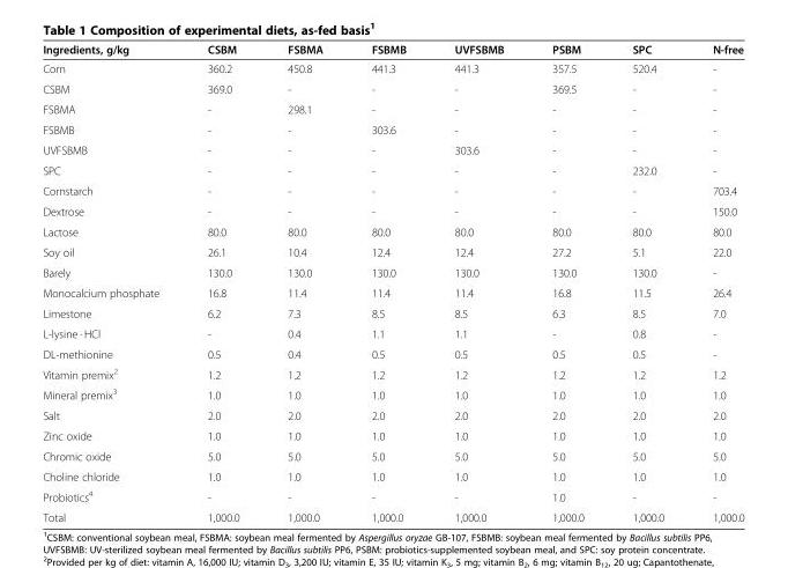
<table><thead><tr><td>Ingredients, g/kg</td><td>CSBM</td><td>FSBMA</td><td>FSBMB</td><td>UVFSBMB</td><td>PSBM</td><td>SPC</td><td>N-free</td></tr></thead><tbody><tr><td>Corn</td><td>360.2</td><td>450.8</td><td>441.3</td><td>441.3</td><td>357.5</td><td>520.4</td><td>-</td></tr><tr><td>CSBM</td><td>369.0</td><td>-</td><td>-</td><td>-</td><td>369.5</td><td>-</td><td>-</td></tr><tr><td>FSBMA</td><td>-</td><td>298.1</td><td>-</td><td>-</td><td>-</td><td>-</td><td>-</td></tr><tr><td>FSBMB</td><td>-</td><td>-</td><td>303.6</td><td>-</td><td>-</td><td>-</td><td>-</td></tr><tr><td>UVFSBMB</td><td>-</td><td>-</td><td>-</td><td>303.6</td><td>-</td><td>-</td><td>-</td></tr><tr><td>SPC</td><td>-</td><td>-</td><td>-</td><td>-</td><td>-</td><td>232.0</td><td>-</td></tr><tr><td>Cornstarch</td><td>-</td><td>-</td><td>-</td><td>-</td><td>-</td><td>-</td><td>703.4</td></tr><tr><td>Dextrose</td><td>-</td><td>-</td><td>-</td><td>-</td><td>-</td><td>-</td><td>150.0</td></tr><tr><td>Lactose</td><td>80.0</td><td>80.0</td><td>80.0</td><td>80.0</td><td>80.0</td><td>80.0</td><td>80.0</td></tr><tr><td>Soy oil</td><td>26.1</td><td>10.4</td><td>12.4</td><td>12.4</td><td>27.2</td><td>5.1</td><td>22.0</td></tr><tr><td>Barely</td><td>130.0</td><td>130.0</td><td>130.0</td><td>130.0</td><td>130.0</td><td>130.0</td><td>-</td></tr><tr><td>Monocalcium phosphate</td><td>16.8</td><td>11.4</td><td>11.4</td><td>11.4</td><td>16.8</td><td>11.5</td><td>26.4</td></tr><tr><td>Limestone</td><td>6.2</td><td>7.3</td><td>8.5</td><td>8.5</td><td>6.3</td><td>8.5</td><td>7.0</td></tr><tr><td>L-lysine · HCl</td><td>-</td><td>0.4</td><td>1.1</td><td>1.1</td><td>-</td><td>0.8</td><td>-</td></tr><tr><td>DL-methionine</td><td>0.5</td><td>0.4</td><td>0.5</td><td>0.5</td><td>0.5</td><td>0.5</td><td>-</td></tr><tr><td>Vitamin premix<sup>2</sup></td><td>1.2</td><td>1.2</td><td>1.2</td><td>1.2</td><td>1.2</td><td>1.2</td><td>1.2</td></tr><tr><td>Mineral premix<sup>3</sup></td><td>1.0</td><td>1.0</td><td>1.0</td><td>1.0</td><td>1.0</td><td>1.0</td><td>1.0</td></tr><tr><td>Salt</td><td>2.0</td><td>2.0</td><td>2.0</td><td>2.0</td><td>2.0</td><td>2.0</td><td>2.0</td></tr><tr><td>Zinc oxide</td><td>1.0</td><td>1.0</td><td>1.0</td><td>1.0</td><td>1.0</td><td>1.0</td><td>1.0</td></tr><tr><td>Chromic oxide</td><td>5.0</td><td>5.0</td><td>5.0</td><td>5.0</td><td>5.0</td><td>5.0</td><td>5.0</td></tr><tr><td>Choline chloride</td><td>1.0</td><td>1.0</td><td>1.0</td><td>1.0</td><td>1.0</td><td>1.0</td><td>1.0</td></tr><tr><td>Probiotics<sup>4</sup></td><td>-</td><td>-</td><td>-</td><td>-</td><td>1.0</td><td>-</td><td>-</td></tr><tr><td>Total</td><td>1,000.0</td><td>1,000.0</td><td>1,000.0</td><td>1,000.0</td><td>1,000.0</td><td>1,000.0</td><td>1,000.0</td></tr></tbody></table>